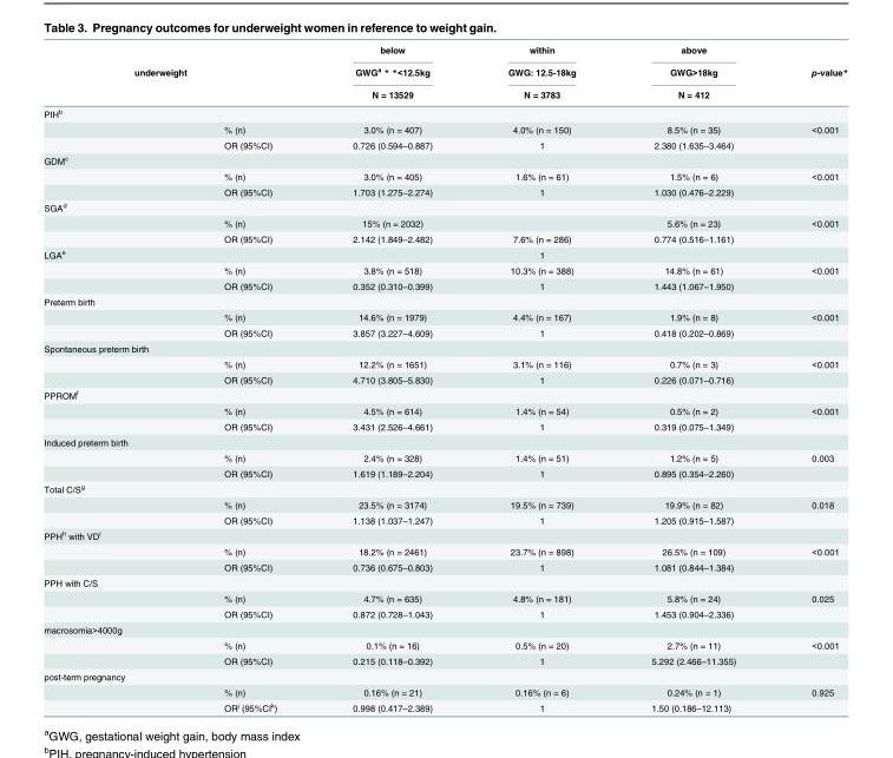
<table><thead><tr><td></td><td></td><td rowspan="3">below GWG<sup>a</sup> * *&lt;12.5kg N = 13529</td><td rowspan="3">within GWG: 12.5-18kg N = 3783</td><td rowspan="3">above GWG&gt;18kg N = 412</td><td rowspan="3">p-value*</td></tr><tr><td colspan="2">underweight</td></tr><tr><td></td><td></td></tr></thead><tbody><tr><td colspan="6">PIH<sup>b</sup></td></tr><tr><td></td><td>% (n)</td><td>3.0% (n = 407)</td><td>4.0% (n = 150)</td><td>8.5% (n = 35)</td><td>&lt;0.001</td></tr><tr><td></td><td>OR (95%CI)</td><td>0.726 (0.594–0.887)</td><td>1</td><td>2.380 (1.635–3.464)</td><td></td></tr><tr><td colspan="6">GDM<sup>c</sup></td></tr><tr><td></td><td>% (n)</td><td>3.0% (n = 405)</td><td>1.6% (n = 61)</td><td>1.5% (n = 6)</td><td>&lt;0.001</td></tr><tr><td></td><td>OR (95%CI)</td><td>1.703 (1.275–2.274)</td><td>1</td><td>1.030 (0.476–2.229)</td><td></td></tr><tr><td colspan="6">SGA<sup>d</sup></td></tr><tr><td></td><td>% (n)</td><td>15% (n = 2032)</td><td></td><td>5.6% (n = 23)</td><td>&lt;0.001</td></tr><tr><td></td><td>OR (95%CI)</td><td>2.142 (1.849–2.482)</td><td>7.6% (n = 286)</td><td>0.774 (0.516–1.161)</td><td></td></tr><tr><td rowspan="3">LGA<sup>e</sup></td><td></td><td></td><td>1</td><td></td><td></td></tr><tr><td>% (n)</td><td>3.8% (n = 518)</td><td>10.3% (n = 388)</td><td>14.8% (n = 61)</td><td>&lt;0.001</td></tr><tr><td>OR (95%CI)</td><td>0.352 (0.310–0.399)</td><td>1</td><td>1.443 (1.067–1.950)</td><td></td></tr><tr><td colspan="6">Preterm birth</td></tr><tr><td></td><td>% (n)</td><td>14.6% (n = 1979)</td><td>4.4% (n = 167)</td><td>1.9% (n = 8)</td><td>&lt;0.001</td></tr><tr><td></td><td>OR (95%CI)</td><td>3.857 (3.227–4.609)</td><td>1</td><td>0.418 (0.202–0.869)</td><td></td></tr><tr><td colspan="6">Spontaneous preterm birth</td></tr><tr><td></td><td>% (n)</td><td>12.2% (n = 1651)</td><td>3.1% (n = 116)</td><td>0.7% (n = 3)</td><td>&lt;0.001</td></tr><tr><td></td><td>OR (95%CI)</td><td>4.710 (3.805–5.830)</td><td>1</td><td>0.226 (0.071–0.716)</td><td></td></tr><tr><td colspan="6">PPROM<sup>f</sup></td></tr><tr><td></td><td>% (n)</td><td>4.5% (n = 614)</td><td>1.4% (n = 54)</td><td>0.5% (n = 2)</td><td>&lt;0.001</td></tr><tr><td></td><td>OR (95%CI)</td><td>3.431 (2.526–4.661)</td><td>1</td><td>0.319 (0.075–1.349)</td><td></td></tr><tr><td colspan="6">Induced preterm birth</td></tr><tr><td></td><td>% (n)</td><td>2.4% (n = 328)</td><td>1.4% (n = 51)</td><td>1.2% (n = 5)</td><td>0.003</td></tr><tr><td></td><td>OR (95%CI)</td><td>1.619 (1.189–2.204)</td><td>1</td><td>0.895 (0.354–2.260)</td><td></td></tr><tr><td colspan="6">Total C/S<sup>g</sup></td></tr><tr><td></td><td>% (n)</td><td>23.5% (n = 3174)</td><td>19.5% (n = 739)</td><td>19.9% (n = 82)</td><td>0.018</td></tr><tr><td></td><td>OR (95%CI)</td><td>1.138 (1.037–1.247)</td><td>1</td><td>1.205 (0.915–1.587)</td><td></td></tr><tr><td colspan="6">PPH<sup>h</sup> with VD<sup>i</sup></td></tr><tr><td></td><td>% (n)</td><td>18.2% (n = 2461)</td><td>23.7% (n = 898)</td><td>26.5% (n = 109)</td><td>&lt;0.001</td></tr><tr><td></td><td>OR (95%CI)</td><td>0.736 (0.675–0.803)</td><td>1</td><td>1.081 (0.844–1.384)</td><td></td></tr><tr><td colspan="6">PPH with C/S</td></tr><tr><td></td><td>% (n)</td><td>4.7% (n = 635)</td><td>4.8% (n = 181)</td><td>5.8% (n = 24)</td><td>0.025</td></tr><tr><td></td><td>OR (95%CI)</td><td>0.872 (0.728–1.043)</td><td>1</td><td>1.453 (0.904–2.336)</td><td></td></tr><tr><td colspan="6">macrosomia&gt;4000g</td></tr><tr><td></td><td>% (n)</td><td>0.1% (n = 16)</td><td>0.5% (n = 20)</td><td>2.7% (n = 11)</td><td>&lt;0.001</td></tr><tr><td></td><td>OR (95%CI)</td><td>0.215 (0.118–0.392)</td><td>1</td><td>5.292 (2.466–11.355)</td><td></td></tr><tr><td colspan="6">post-term pregnancy</td></tr><tr><td></td><td>% (n)</td><td>0.16% (n = 21)</td><td>0.16% (n = 6)</td><td>0.24% (n = 1)</td><td>0.925</td></tr><tr><td></td><td>OR<sup>j</sup> (95%CI<sup>k</sup>)</td><td>0.998 (0.417–2.389)</td><td>1</td><td>1.50 (0.186–12.113)</td><td></td></tr></tbody></table>